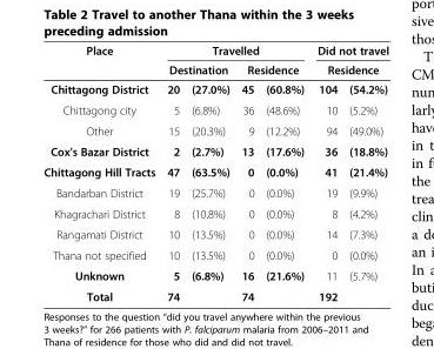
<table><thead><tr><td rowspan="3">Place Chittagong District</td><td colspan="4">Travelled</td><td rowspan="2" colspan="2">Did not travel Residence</td></tr><tr><td colspan="2">Destination</td><td colspan="2">Residence</td></tr><tr><td>20</td><td>(27.0%)</td><td>45</td><td>(60.8%)</td><td>104</td><td>(54.2%)</td></tr></thead><tbody><tr><td>Chittagong city</td><td>5</td><td>(6.8%)</td><td>36</td><td>(48.6%)</td><td>10</td><td>(5.2%)</td></tr><tr><td>Other</td><td>15</td><td>(20.3%)</td><td>9</td><td>(12.2%)</td><td>94</td><td>(49.0%)</td></tr><tr><td>Cox&#x27;s Bazar District</td><td>2</td><td>(2.7%)</td><td>13</td><td>(17.6%)</td><td>36</td><td>(18.8%)</td></tr><tr><td>Chittagong Hill Tracts</td><td>47</td><td>(63.5%)</td><td>0</td><td>(0.0%)</td><td>41</td><td>(21.4%)</td></tr><tr><td>Bandarban District</td><td>19</td><td>(25.7%)</td><td>0</td><td>(0.0%)</td><td>19</td><td>(9.9%)</td></tr><tr><td>Khagrachari District</td><td>8</td><td>(10.8%)</td><td>0</td><td>(0.0%)</td><td>8</td><td>(4.2%)</td></tr><tr><td>Rangamati District</td><td>10</td><td>(13.5%)</td><td>0</td><td>(0.0%)</td><td>14</td><td>(7.3%)</td></tr><tr><td>Thana not specified</td><td>10</td><td>(13.5%)</td><td>0</td><td>(0.0%)</td><td>0</td><td>(0.0%)</td></tr><tr><td>Unknown</td><td>5</td><td>(6.8%)</td><td>16</td><td>(21.6%)</td><td>11</td><td>(5.7%)</td></tr><tr><td>Total</td><td>74</td><td></td><td>74</td><td></td><td>192</td><td></td></tr></tbody></table>